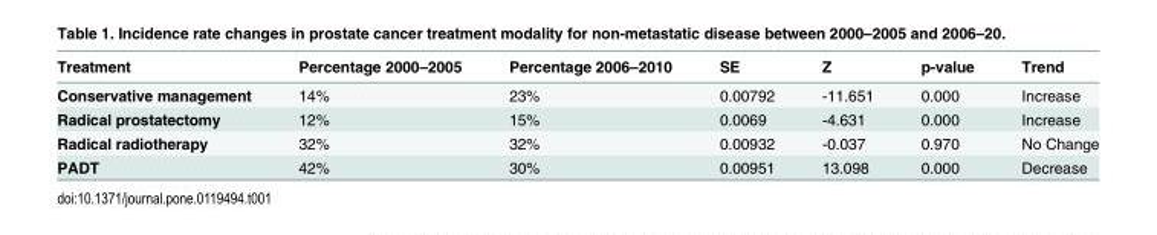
<table><thead><tr><td>Treatment</td><td>Percentage 2000–2005</td><td>Percentage 2006–2010</td><td>SE</td><td>Z</td><td>p-value</td><td>Trend</td></tr></thead><tbody><tr><td>Conservative management</td><td>14%</td><td>23%</td><td>0.00792</td><td>-11.651</td><td>0.000</td><td>Increase</td></tr><tr><td>Radical prostatectomy</td><td>12%</td><td>15%</td><td>0.0069</td><td>-4.631</td><td>0.000</td><td>Increase</td></tr><tr><td>Radical radiotherapy</td><td>32%</td><td>32%</td><td>0.00932</td><td>-0.037</td><td>0.970</td><td>No Change</td></tr><tr><td>PADT</td><td>42%</td><td>30%</td><td>0.00951</td><td>13.098</td><td>0.000</td><td>Decrease</td></tr></tbody></table>